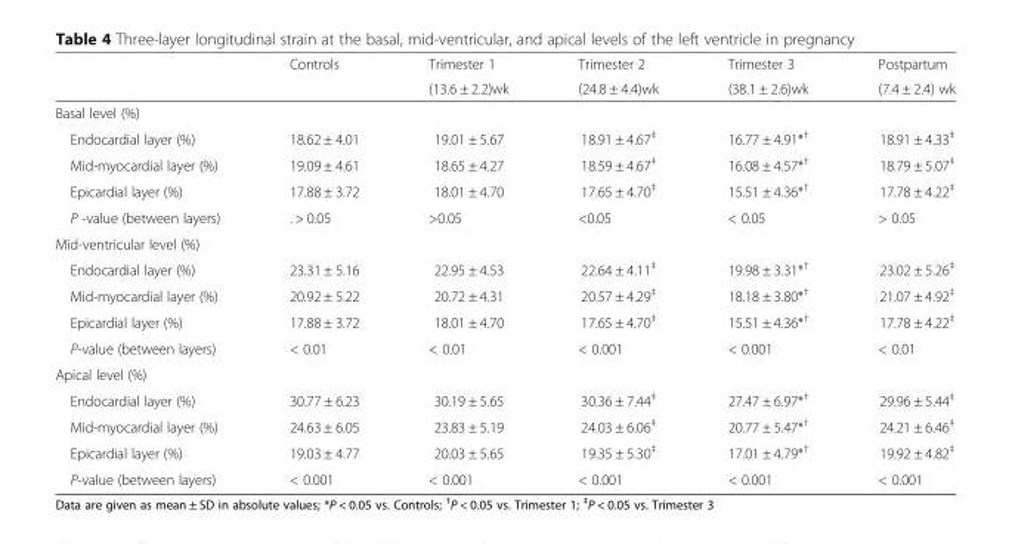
<table><thead><tr><td rowspan="2"></td><td rowspan="2">Controls</td><td rowspan="2">Trimester 1 (13.6 ± 2.2)wk</td><td rowspan="2">Trimester 2 (24.8 ± 4.4)wk</td><td rowspan="2">Trimester 3 (38.1 ± 2.6)wk</td><td rowspan="2">Postpartum (7.4 ± 2.4) wk</td></tr><tr></tr></thead><tbody><tr><td colspan="6">Basal level (%)</td></tr><tr><td>Endocardial layer (%)</td><td>18.62 ± 4.01</td><td>19.01 ± 5.67</td><td>18.91 ± 4.67<sup>‡</sup></td><td>16.77 ± 4.91*<sup>†</sup></td><td>18.91 ± 4.33<sup>‡</sup></td></tr><tr><td>Mid-myocardial layer (%)</td><td>19.09 ± 4.61</td><td>18.65 ± 4.27</td><td>18.59 ± 4.67<sup>‡</sup></td><td>16.08 ± 4.57*<sup>†</sup></td><td>18.79 ± 5.07<sup>‡</sup></td></tr><tr><td>Epicardial layer (%)</td><td>17.88 ± 3.72</td><td>18.01 ± 4.70</td><td>17.65 ± 4.70<sup>‡</sup></td><td>15.51 ± 4.36*<sup>†</sup></td><td>17.78 ± 4.22<sup>‡</sup></td></tr><tr><td>P -value (between layers)</td><td>. &gt; 0.05</td><td>&gt;0.05</td><td>&lt;0.05</td><td>&lt; 0.05</td><td>&gt; 0.05</td></tr><tr><td colspan="6">Mid-ventricular level (%)</td></tr><tr><td>Endocardial layer (%)</td><td>23.31 ± 5.16</td><td>22.95 ± 4.53</td><td>22.64 ± 4.11<sup>‡</sup></td><td>19.98 ± 3.31*<sup>†</sup></td><td>23.02 ± 5.26<sup>‡</sup></td></tr><tr><td>Mid-myocardial layer (%)</td><td>20.92 ± 5.22</td><td>20.72 ± 4.31</td><td>20.57 ± 4.29<sup>‡</sup></td><td>18.18 ± 3.80*<sup>†</sup></td><td>21.07 ± 4.92<sup>‡</sup></td></tr><tr><td>Epicardial layer (%)</td><td>17.88 ± 3.72</td><td>18.01 ± 4.70</td><td>17.65 ± 4.70<sup>‡</sup></td><td>15.51 ± 4.36*<sup>†</sup></td><td>17.78 ± 4.22<sup>‡</sup></td></tr><tr><td>P-value (between layers)</td><td>&lt; 0.01</td><td>&lt; 0.01</td><td>&lt; 0.001</td><td>&lt; 0.001</td><td>&lt; 0.01</td></tr><tr><td colspan="6">Apical level (%)</td></tr><tr><td>Endocardial layer (%)</td><td>30.77 ± 6.23</td><td>30.19 ± 5.65</td><td>30.36 ± 7.44<sup>‡</sup></td><td>27.47 ± 6.97*<sup>†</sup></td><td>29.96 ± 5.44<sup>‡</sup></td></tr><tr><td>Mid-myocardial layer (%)</td><td>24.63 ± 6.05</td><td>23.83 ± 5.19</td><td>24.03 ± 6.06<sup>‡</sup></td><td>20.77 ± 5.47*<sup>†</sup></td><td>24.21 ± 6.46<sup>‡</sup></td></tr><tr><td>Epicardial layer (%)</td><td>19.03 ± 4.77</td><td>20.03 ± 5.65</td><td>19.35 ± 5.30<sup>‡</sup></td><td>17.01 ± 4.79*<sup>†</sup></td><td>19.92 ± 4.82<sup>‡</sup></td></tr><tr><td>P-value (between layers)</td><td>&lt; 0.001</td><td>&lt; 0.001</td><td>&lt; 0.001</td><td>&lt; 0.001</td><td>&lt; 0.001</td></tr></tbody></table>